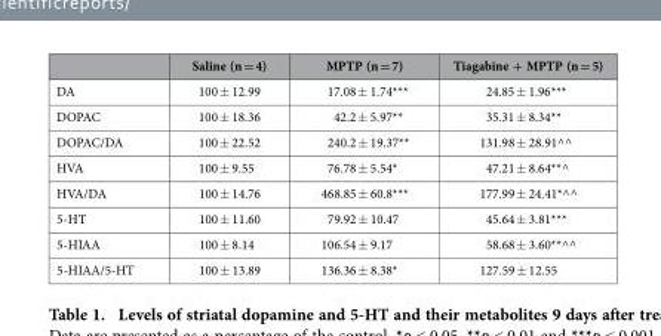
<table><thead><tr><td></td><td>Saline (n = 4)</td><td>MPTP (n = 7)</td><td>Tiagabine + MPTP (n = 5)</td></tr></thead><tbody><tr><td>DA</td><td>100 ± 12.99</td><td>17.08 ± 1.74***</td><td>24.85 ± 1.96***</td></tr><tr><td>DOPAC</td><td>100 ± 18.36</td><td>42.2 ± 5.97**</td><td>35.31 ± 8.34**</td></tr><tr><td>DOPAC/DA</td><td>100 ± 22.52</td><td>240.2 ± 19.37**</td><td>131.98 ± 28.91^^</td></tr><tr><td>HVA</td><td>100 ± 9.55</td><td>76.78 ± 5.54*</td><td>47.21 ± 8.64**^</td></tr><tr><td>HVA/DA</td><td>100 ± 14.76</td><td>468.85 ± 60.8***</td><td>177.99 ± 24.41*^^</td></tr><tr><td>5-HT</td><td>100 ± 11.60</td><td>79.92 ± 10.47</td><td>45.64 ± 3.81***</td></tr><tr><td>5-HIAA</td><td>100 ± 8.14</td><td>106.54 ± 9.17</td><td>58.68 ± 3.60**^^</td></tr><tr><td>5-HIAA/5-HT</td><td>100 ± 13.89</td><td>136.36 ± 8.38*</td><td>127.59 ± 12.55</td></tr></tbody></table>